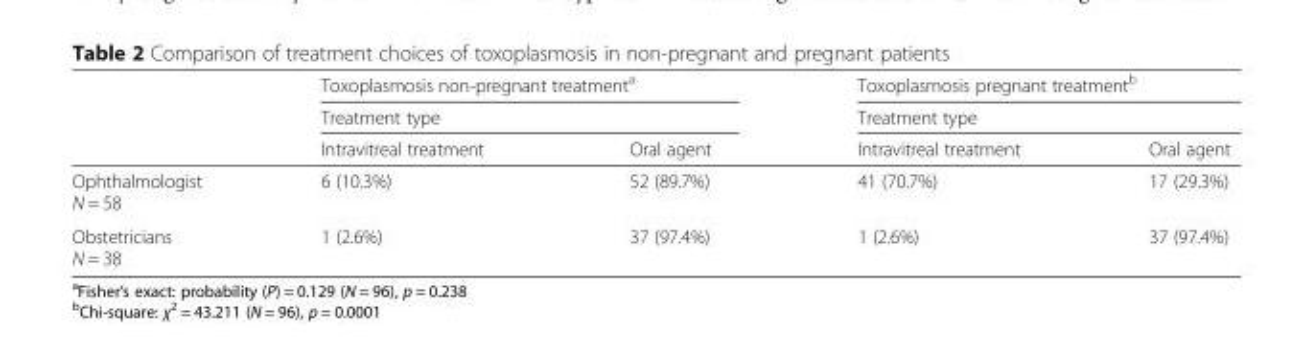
<table><thead><tr><td rowspan="3"></td><td rowspan="2" colspan="2">Toxoplasmosis non-pregnant treatment<sup>a</sup> Treatment type</td><td rowspan="2" colspan="2">Toxoplasmosis pregnant treatment<sup>b</sup> Treatment type</td></tr><tr></tr><tr><td>Intravitreal treatment</td><td>Oral agent</td><td>Intravitreal treatment</td><td>Oral agent</td></tr></thead><tbody><tr><td>Ophthalmologist N = 58</td><td>6 (10.3%)</td><td>52 (89.7%)</td><td>41 (70.7%)</td><td>17 (29.3%)</td></tr><tr><td>Obstetricians N = 38</td><td>1 (2.6%)</td><td>37 (97.4%)</td><td>1 (2.6%)</td><td>37 (97.4%)</td></tr></tbody></table>